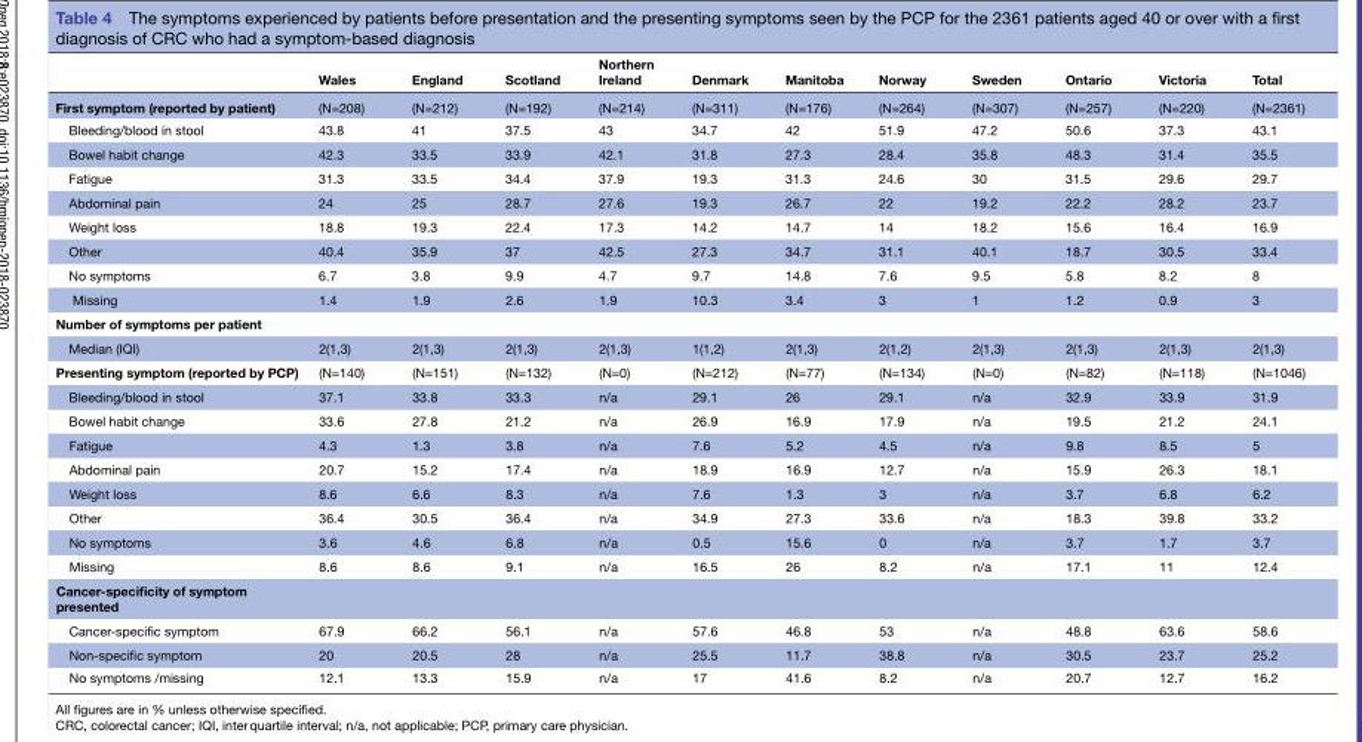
<table><thead><tr><td></td><td>Wales</td><td>England</td><td>Scotland</td><td>Northern Ireland</td><td>Denmark</td><td>Manitoba</td><td>Norway</td><td>Sweden</td><td>Ontario</td><td>Victoria</td><td>Total</td></tr></thead><tbody><tr><td>First symptom (reported by patient)</td><td>(N=208)</td><td>(N=212)</td><td>(N=192)</td><td>(N=214)</td><td>(N=311)</td><td>(N=176)</td><td>(N=264)</td><td>(N=307)</td><td>(N=257)</td><td>(N=220)</td><td>(N=2361)</td></tr><tr><td>Bleeding/blood in stool</td><td>43.8</td><td>41</td><td>37.5</td><td>43</td><td>34.7</td><td>42</td><td>51.9</td><td>47.2</td><td>50.6</td><td>37.3</td><td>43.1</td></tr><tr><td>Bowel habit change</td><td>42.3</td><td>33.5</td><td>33.9</td><td>42.1</td><td>31.8</td><td>27.3</td><td>28.4</td><td>35.8</td><td>48.3</td><td>31.4</td><td>35.5</td></tr><tr><td>Fatigue</td><td>31.3</td><td>33.5</td><td>34.4</td><td>37.9</td><td>19.3</td><td>31.3</td><td>24.6</td><td>30</td><td>31.5</td><td>29.6</td><td>29.7</td></tr><tr><td>Abdominal pain</td><td>24</td><td>25</td><td>28.7</td><td>27.6</td><td>19.3</td><td>26.7</td><td>22</td><td>19.2</td><td>22.2</td><td>28.2</td><td>23.7</td></tr><tr><td>Weight loss</td><td>18.8</td><td>19.3</td><td>22.4</td><td>17.3</td><td>14.2</td><td>14.7</td><td>14</td><td>18.2</td><td>15.6</td><td>16.4</td><td>16.9</td></tr><tr><td>Other</td><td>40.4</td><td>35.9</td><td>37</td><td>42.5</td><td>27.3</td><td>34.7</td><td>31.1</td><td>40.1</td><td>18.7</td><td>30.5</td><td>33.4</td></tr><tr><td>No symptoms</td><td>6.7</td><td>3.8</td><td>9.9</td><td>4.7</td><td>9.7</td><td>14.8</td><td>7.6</td><td>9.5</td><td>5.8</td><td>8.2</td><td>8</td></tr><tr><td>Missing</td><td>1.4</td><td>1.9</td><td>2.6</td><td>1.9</td><td>10.3</td><td>3.4</td><td>3</td><td>1</td><td>1.2</td><td>0.9</td><td>3</td></tr><tr><td colspan="12">Number of symptoms per patient</td></tr><tr><td>Median (IQI)</td><td>2(1,3)</td><td>2(1,3)</td><td>2(1,3)</td><td>2(1,3)</td><td>1(1,2)</td><td>2(1,3)</td><td>2(1,2)</td><td>2(1,3)</td><td>2(1,3)</td><td>2(1,3)</td><td>2(1,3)</td></tr><tr><td>Presenting symptom (reported by PCP)</td><td>(N=140)</td><td>(N=151)</td><td>(N=132)</td><td>(N=0)</td><td>(N=212)</td><td>(N=77)</td><td>(N=134)</td><td>(N=0)</td><td>(N=82)</td><td>(N=118)</td><td>(N=1046)</td></tr><tr><td>Bleeding/blood in stool</td><td>37.1</td><td>33.8</td><td>33.3</td><td>n/a</td><td>29.1</td><td>26</td><td>29.1</td><td>n/a</td><td>32.9</td><td>33.9</td><td>31.9</td></tr><tr><td>Bowel habit change</td><td>33.6</td><td>27.8</td><td>21.2</td><td>n/a</td><td>26.9</td><td>16.9</td><td>17.9</td><td>n/a</td><td>19.5</td><td>21.2</td><td>24.1</td></tr><tr><td>Fatigue</td><td>4.3</td><td>1.3</td><td>3.8</td><td>n/a</td><td>7.6</td><td>5.2</td><td>4.5</td><td>n/a</td><td>9.8</td><td>8.5</td><td>5</td></tr><tr><td>Abdominal pain</td><td>20.7</td><td>15.2</td><td>17.4</td><td>n/a</td><td>18.9</td><td>16.9</td><td>12.7</td><td>n/a</td><td>15.9</td><td>26.3</td><td>18.1</td></tr><tr><td>Weight loss</td><td>8.6</td><td>6.6</td><td>8.3</td><td>n/a</td><td>7.6</td><td>1.3</td><td>3</td><td>n/a</td><td>3.7</td><td>6.8</td><td>6.2</td></tr><tr><td>Other</td><td>36.4</td><td>30.5</td><td>36.4</td><td>n/a</td><td>34.9</td><td>27.3</td><td>33.6</td><td>n/a</td><td>18.3</td><td>39.8</td><td>33.2</td></tr><tr><td>No symptoms</td><td>3.6</td><td>4.6</td><td>6.8</td><td>n/a</td><td>0.5</td><td>15.6</td><td>0</td><td>n/a</td><td>3.7</td><td>1.7</td><td>3.7</td></tr><tr><td>Missing</td><td>8.6</td><td>8.6</td><td>9.1</td><td>n/a</td><td>16.5</td><td>26</td><td>8.2</td><td>n/a</td><td>17.1</td><td>11</td><td>12.4</td></tr><tr><td colspan="12">Cancer-specificity of symptom presented</td></tr><tr><td>Cancer-specific symptom</td><td>67.9</td><td>66.2</td><td>56.1</td><td>n/a</td><td>57.6</td><td>46.8</td><td>53</td><td>n/a</td><td>48.8</td><td>63.6</td><td>58.6</td></tr><tr><td>Non-specific symptom</td><td>20</td><td>20.5</td><td>28</td><td>n/a</td><td>25.5</td><td>11.7</td><td>38.8</td><td>n/a</td><td>30.5</td><td>23.7</td><td>25.2</td></tr><tr><td>No symptoms /missing</td><td>12.1</td><td>13.3</td><td>15.9</td><td>n/a</td><td>17</td><td>41.6</td><td>8.2</td><td>n/a</td><td>20.7</td><td>12.7</td><td>16.2</td></tr></tbody></table>